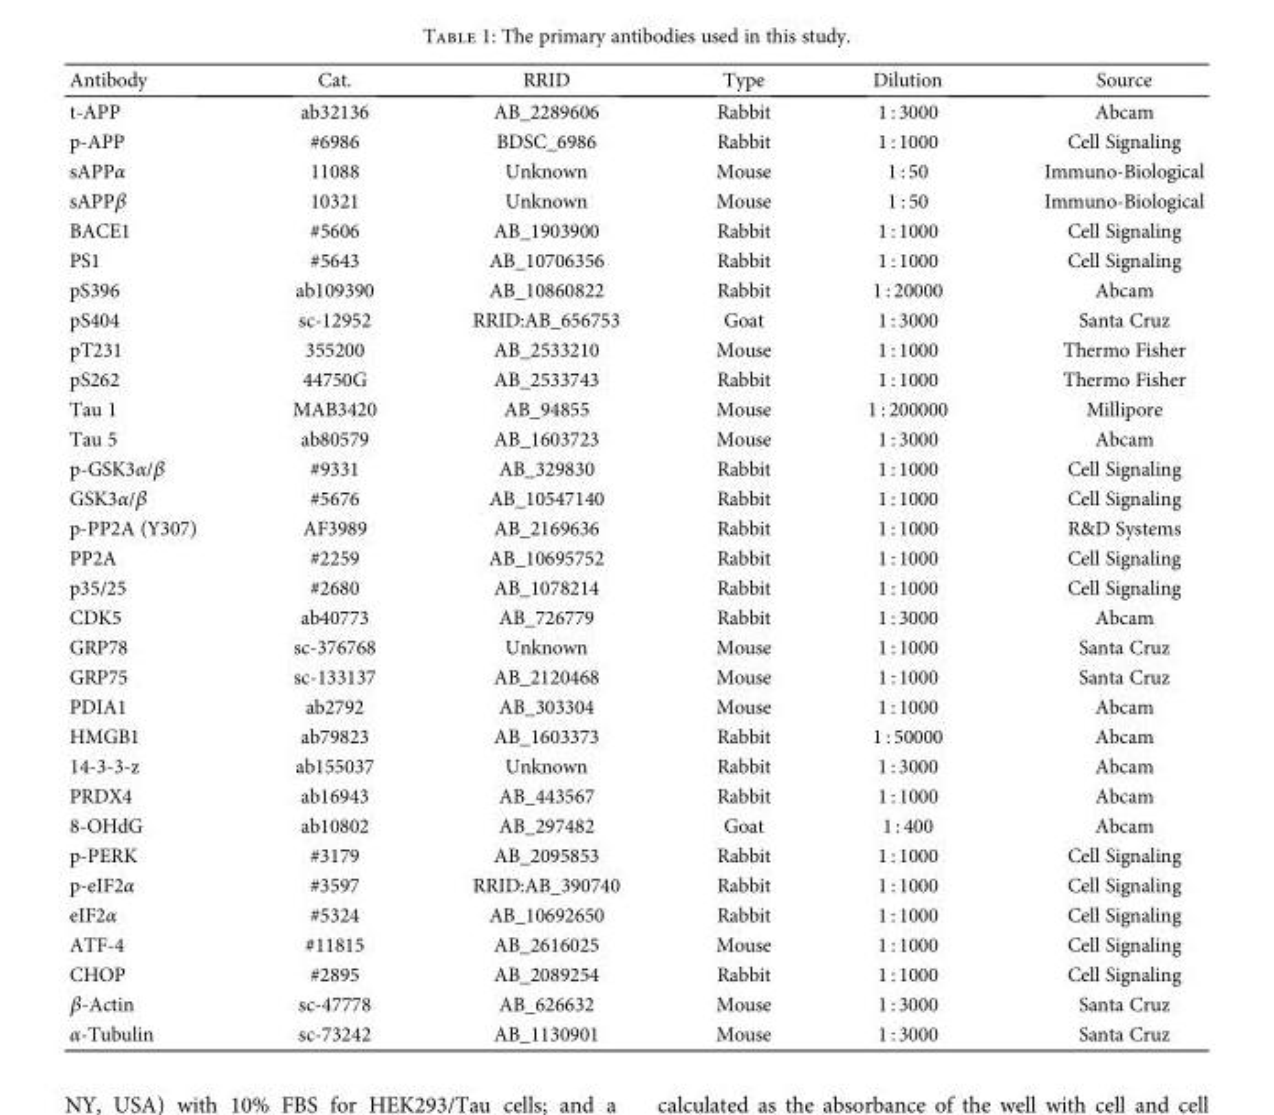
<table><thead><tr><td>Antibody</td><td>Cat.</td><td>RRID</td><td>Type</td><td>Dilution</td><td>Source</td></tr></thead><tbody><tr><td>t-APP</td><td>ab32136</td><td>AB_2289606</td><td>Rabbit</td><td>1 : 3000</td><td>Abcam</td></tr><tr><td>p-APP</td><td>#6986</td><td>BDSC_6986</td><td>Rabbit</td><td>1 : 1000</td><td>Cell Signaling</td></tr><tr><td>sAPPα</td><td>11088</td><td>Unknown</td><td>Mouse</td><td>1 : 50</td><td>Immuno-Biological</td></tr><tr><td>sAPPβ</td><td>10321</td><td>Unknown</td><td>Mouse</td><td>1 : 50</td><td>Immuno-Biological</td></tr><tr><td>BACE1</td><td>#5606</td><td>AB_1903900</td><td>Rabbit</td><td>1 : 1000</td><td>Cell Signaling</td></tr><tr><td>PS1</td><td>#5643</td><td>AB_10706356</td><td>Rabbit</td><td>1 : 1000</td><td>Cell Signaling</td></tr><tr><td>pS396</td><td>ab109390</td><td>AB_10860822</td><td>Rabbit</td><td>1 : 20000</td><td>Abcam</td></tr><tr><td>pS404</td><td>sc-12952</td><td>RRID:AB_656753</td><td>Goat</td><td>1 : 3000</td><td>Santa Cruz</td></tr><tr><td>pT231</td><td>355200</td><td>AB_2533210</td><td>Mouse</td><td>1 : 1000</td><td>Thermo Fisher</td></tr><tr><td>pS262</td><td>44750G</td><td>AB_2533743</td><td>Rabbit</td><td>1 : 1000</td><td>Thermo Fisher</td></tr><tr><td>Tau 1</td><td>MAB3420</td><td>AB_94855</td><td>Mouse</td><td>1 : 200000</td><td>Millipore</td></tr><tr><td>Tau 5</td><td>ab80579</td><td>AB_1603723</td><td>Mouse</td><td>1 : 3000</td><td>Abcam</td></tr><tr><td>p-GSK3α/β</td><td>#9331</td><td>AB_329830</td><td>Rabbit</td><td>1 : 1000</td><td>Cell Signaling</td></tr><tr><td>GSK3α/β</td><td>#5676</td><td>AB_10547140</td><td>Rabbit</td><td>1 : 1000</td><td>Cell Signaling</td></tr><tr><td>p-PP2A (Y307)</td><td>AF3989</td><td>AB_2169636</td><td>Rabbit</td><td>1 : 1000</td><td>R&amp;D Systems</td></tr><tr><td>PP2A</td><td>#2259</td><td>AB_10695752</td><td>Rabbit</td><td>1 : 1000</td><td>Cell Signaling</td></tr><tr><td>p35/25</td><td>#2680</td><td>AB_1078214</td><td>Rabbit</td><td>1 : 1000</td><td>Cell Signaling</td></tr><tr><td>CDK5</td><td>ab40773</td><td>AB_726779</td><td>Rabbit</td><td>1 : 3000</td><td>Abcam</td></tr><tr><td>GRP78</td><td>sc-376768</td><td>Unknown</td><td>Mouse</td><td>1 : 1000</td><td>Santa Cruz</td></tr><tr><td>GRP75</td><td>sc-133137</td><td>AB_2120468</td><td>Mouse</td><td>1 : 1000</td><td>Santa Cruz</td></tr><tr><td>PDIA1</td><td>ab2792</td><td>AB_303304</td><td>Mouse</td><td>1 : 1000</td><td>Abcam</td></tr><tr><td>HMGB1</td><td>ab79823</td><td>AB_1603373</td><td>Rabbit</td><td>1 : 50000</td><td>Abcam</td></tr><tr><td>14-3-3-z</td><td>ab155037</td><td>Unknown</td><td>Rabbit</td><td>1 : 3000</td><td>Abcam</td></tr><tr><td>PRDX4</td><td>ab16943</td><td>AB_443567</td><td>Rabbit</td><td>1 : 1000</td><td>Abcam</td></tr><tr><td>8-OHdG</td><td>ab10802</td><td>AB_297482</td><td>Goat</td><td>1 : 400</td><td>Abcam</td></tr><tr><td>p-PERK</td><td>#3179</td><td>AB_2095853</td><td>Rabbit</td><td>1 : 1000</td><td>Cell Signaling</td></tr><tr><td>p-eIF2α</td><td>#3597</td><td>RRID:AB_390740</td><td>Rabbit</td><td>1 : 1000</td><td>Cell Signaling</td></tr><tr><td>eIF2α</td><td>#5324</td><td>AB_10692650</td><td>Rabbit</td><td>1 : 1000</td><td>Cell Signaling</td></tr><tr><td>ATF-4</td><td>#11815</td><td>AB_2616025</td><td>Mouse</td><td>1 : 1000</td><td>Cell Signaling</td></tr><tr><td>CHOP</td><td>#2895</td><td>AB_2089254</td><td>Rabbit</td><td>1 : 1000</td><td>Cell Signaling</td></tr><tr><td>β-Actin</td><td>sc-47778</td><td>AB_626632</td><td>Mouse</td><td>1 : 3000</td><td>Santa Cruz</td></tr><tr><td>α-Tubulin</td><td>sc-73242</td><td>AB_1130901</td><td>Mouse</td><td>1 : 3000</td><td>Santa Cruz</td></tr></tbody></table>